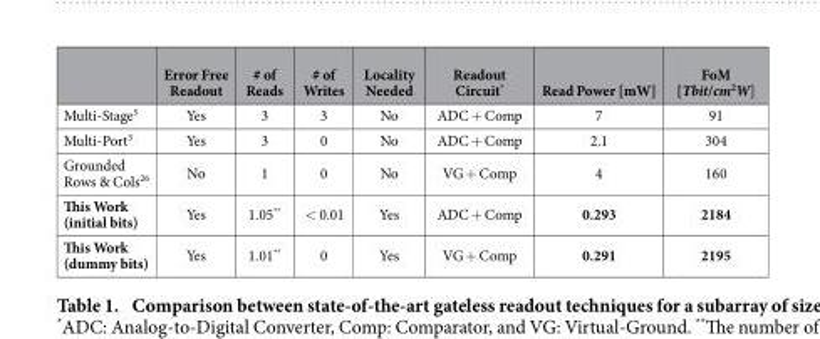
<table><thead><tr><td></td><td>Error Free Readout</td><td># of Reads</td><td># of Writes</td><td>Locality Needed</td><td>Readout Circuit*</td><td>Read Power [mW]</td><td>FoM [Tbit/cm<sup>2</sup>W]</td></tr></thead><tbody><tr><td>Multi-Stage<sup>5</sup></td><td>Yes</td><td>3</td><td>3</td><td>No</td><td>ADC + Comp</td><td>7</td><td>91</td></tr><tr><td>Multi-Port<sup>3</sup></td><td>Yes</td><td>3</td><td>0</td><td>No</td><td>ADC + Comp</td><td>2.1</td><td>304</td></tr><tr><td>Grounded Rows &amp; Cols<sup>26</sup></td><td>No</td><td>1</td><td>0</td><td>No</td><td>VG + Comp</td><td>4</td><td>160</td></tr><tr><td>This Work (initial bits)</td><td>Yes</td><td>1.05**</td><td>&lt; 0.01</td><td>Yes</td><td>ADC + Comp</td><td>0.293</td><td>2184</td></tr><tr><td>This Work (dummy bits)</td><td>Yes</td><td>1.01**</td><td>0</td><td>Yes</td><td>VG + Comp</td><td>0.291</td><td>2195</td></tr></tbody></table>